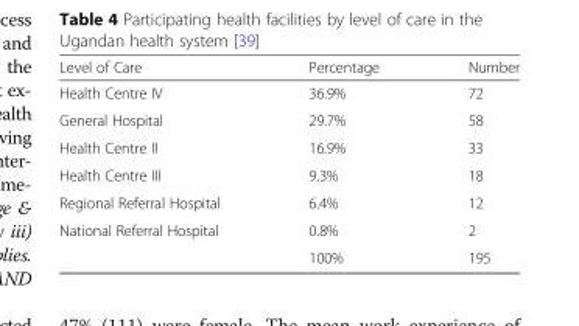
<table><thead><tr><td>Level of Care</td><td>Percentage</td><td>Number</td></tr></thead><tbody><tr><td>Health Centre IV</td><td>36.9%</td><td>72</td></tr><tr><td>General Hospital</td><td>29.7%</td><td>58</td></tr><tr><td>Health Centre II</td><td>16.9%</td><td>33</td></tr><tr><td>Health Centre III</td><td>9.3%</td><td>18</td></tr><tr><td>Regional Referral Hospital</td><td>6.4%</td><td>12</td></tr><tr><td rowspan="2">National Referral Hospital</td><td>0.8%</td><td>2</td></tr><tr><td>100%</td><td>195</td></tr></tbody></table>